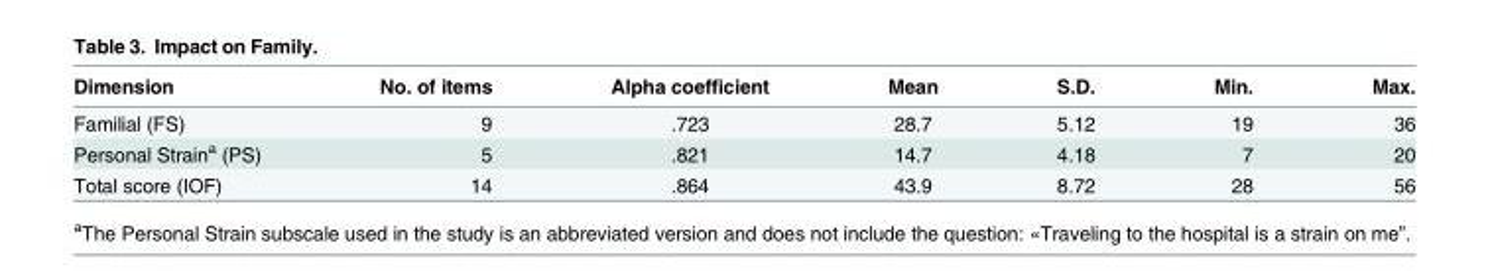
<table><thead><tr><td>Dimension</td><td>No. of items</td><td>Alpha coefficient</td><td>Mean</td><td>S.D.</td><td>Min.</td><td>Max.</td></tr></thead><tbody><tr><td>Familial (FS)</td><td>9</td><td>.723</td><td>28.7</td><td>5.12</td><td>19</td><td>36</td></tr><tr><td>Personal Strain<sup>a</sup> (PS)</td><td>5</td><td>.821</td><td>14.7</td><td>4.18</td><td>7</td><td>20</td></tr><tr><td>Total score (IOF)</td><td>14</td><td>.864</td><td>43.9</td><td>8.72</td><td>28</td><td>56</td></tr></tbody></table>